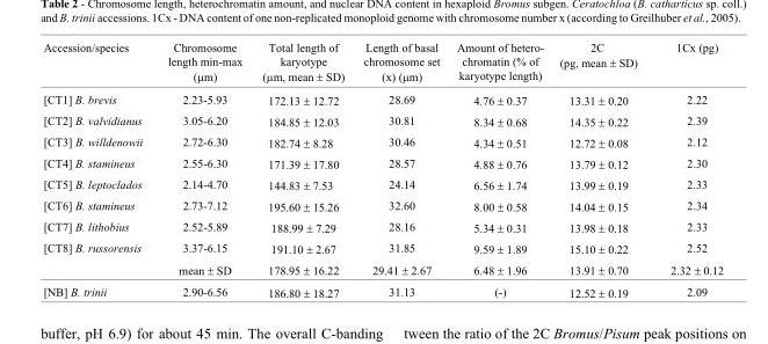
<table><thead><tr><td>Accession/species</td><td>Chromosome length min-max (μm)</td><td>Total length of karyotype (μm, mean ± SD)</td><td>Length of basal chromosome set (x) (μm)</td><td>Amount of hetero- chromatin (% of karyotype length)</td><td>2C (pg, mean ± SD)</td><td>1Cx (pg)</td></tr></thead><tbody><tr><td>[CT1] B. brevis</td><td>2.23-5.93</td><td>172.13 ± 12.72</td><td>28.69</td><td>4.76 ± 0.37</td><td>13.31 ± 0.20</td><td>2.22</td></tr><tr><td>[CT2] B. valvidianus</td><td>3.05-6.20</td><td>184.85 ± 12.03</td><td>30.81</td><td>8.34 ± 0.68</td><td>14.35 ± 0.22</td><td>2.39</td></tr><tr><td>[CT3] B. willdenowii</td><td>2.72-6.30</td><td>182.74 ± 8.28</td><td>30.46</td><td>4.34 ± 0.51</td><td>12.72 ± 0.08</td><td>2.12</td></tr><tr><td>[CT4] B. stamineus</td><td>2.55-6.30</td><td>171.39 ± 17.80</td><td>28.57</td><td>4.88 ± 0.76</td><td>13.79 ± 0.12</td><td>2.30</td></tr><tr><td>[CT5] B. leptoclados</td><td>2.14-4.70</td><td>144.83 ± 7.53</td><td>24.14</td><td>6.56 ± 1.74</td><td>13.99 ± 0.19</td><td>2.33</td></tr><tr><td>[CT6] B. stamineus</td><td>2.73-7.12</td><td>195.60 ± 15.26</td><td>32.60</td><td>8.00 ± 0.58</td><td>14.04 ± 0.15</td><td>2.34</td></tr><tr><td>[CT7] B. lithobius</td><td>2.52-5.89</td><td>188.99 ± 7.29</td><td>28.16</td><td>5.34 ± 0.31</td><td>13.98 ± 0.18</td><td>2.33</td></tr><tr><td rowspan="2">[CT8] B. russorensis</td><td>3.37-6.15</td><td>191.10 ± 2.67</td><td>31.85</td><td>9.59 ± 1.89</td><td>15.10 ± 0.22</td><td>2.52</td></tr><tr><td>mean ± SD</td><td>178.95 ± 16.22</td><td>29.41 ± 2.67</td><td>6.48 ± 1.96</td><td>13.91 ± 0.70</td><td>2.32 ± 0.12</td></tr><tr><td>[NB] B. trinii</td><td>2.90-6.56</td><td>186.80 ± 18.27</td><td>31.13</td><td>(-)</td><td>12.52 ± 0.19</td><td>2.09</td></tr></tbody></table>